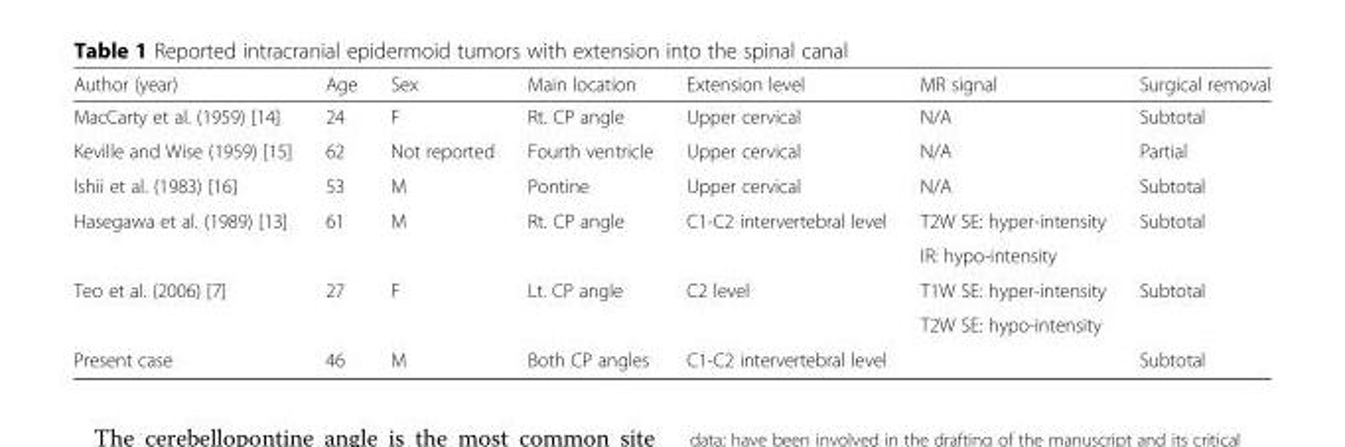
<table><thead><tr><td>Author (year)</td><td>Age</td><td>Sex</td><td>Main location</td><td>Extension level</td><td>MR signal</td><td>Surgical removal</td></tr></thead><tbody><tr><td>MacCarty et al. (1959) [14]</td><td>24</td><td>F</td><td>Rt. CP angle</td><td>Upper cervical</td><td>N/A</td><td>Subtotal</td></tr><tr><td>Keville and Wise (1959) [15]</td><td>62</td><td>Not reported</td><td>Fourth ventricle</td><td>Upper cervical</td><td>N/A</td><td>Partial</td></tr><tr><td>Ishii et al. (1983) [16]</td><td>53</td><td>M</td><td>Pontine</td><td>Upper cervical</td><td>N/A</td><td>Subtotal</td></tr><tr><td rowspan="2">Hasegawa et al. (1989) [13]</td><td rowspan="2">61</td><td rowspan="2">M</td><td rowspan="2">Rt. CP angle</td><td rowspan="2">C1-C2 intervertebral level</td><td>T2W SE: hyper-intensity</td><td rowspan="2">Subtotal</td></tr><tr><td>IR: hypo-intensity</td></tr><tr><td rowspan="2">Teo et al. (2006) [7]</td><td rowspan="2">27</td><td rowspan="2">F</td><td rowspan="2">Lt. CP angle</td><td rowspan="2">C2 level</td><td>T1W SE: hyper-intensity</td><td rowspan="2">Subtotal</td></tr><tr><td>T2W SE: hypo-intensity</td></tr><tr><td>Present case</td><td>46</td><td>M</td><td>Both CP angles</td><td>C1-C2 intervertebral level</td><td></td><td>Subtotal</td></tr></tbody></table>